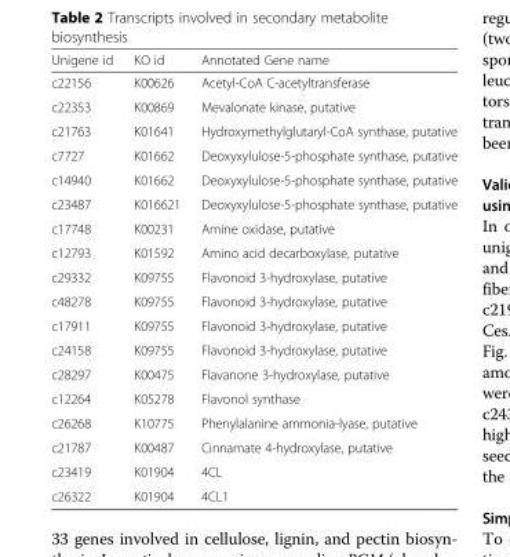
<table><thead><tr><td>Unigene id</td><td>KO id</td><td>Annotated Gene name</td></tr></thead><tbody><tr><td>c22156</td><td>K00626</td><td>Acetyl-CoA C-acetyltransferase</td></tr><tr><td>c22353</td><td>K00869</td><td>Mevalonate kinase, putative</td></tr><tr><td>c21763</td><td>K01641</td><td>Hydroxymethylglutaryl-CoA synthase, putative</td></tr><tr><td>c7727</td><td>K01662</td><td>Deoxyxylulose-5-phosphate synthase, putative</td></tr><tr><td>c14940</td><td>K01662</td><td>Deoxyxylulose-5-phosphate synthase, putative</td></tr><tr><td>c23487</td><td>K016621</td><td>Deoxyxylulose-5-phosphate synthase, putative</td></tr><tr><td>c17748</td><td>K00231</td><td>Amine oxidase, putative</td></tr><tr><td>c12793</td><td>K01592</td><td>Amino acid decarboxylase, putative</td></tr><tr><td>c29332</td><td>K09755</td><td>Flavonoid 3-hydroxylase, putative</td></tr><tr><td>c48278</td><td>K09755</td><td>Flavonoid 3-hydroxylase, putative</td></tr><tr><td>c17911</td><td>K09755</td><td>Flavonoid 3-hydroxylase, putative</td></tr><tr><td>c24158</td><td>K09755</td><td>Flavonoid 3-hydroxylase, putative</td></tr><tr><td>c28297</td><td>K00475</td><td>Flavanone 3-hydroxylase, putative</td></tr><tr><td>c12264</td><td>K05278</td><td>Flavonol synthase</td></tr><tr><td>c26268</td><td>K10775</td><td>Phenylalanine ammonia-lyase, putative</td></tr><tr><td>c21787</td><td>K00487</td><td>Cinnamate 4-hydroxylase, putative</td></tr><tr><td>c23419</td><td>K01904</td><td>4CL</td></tr><tr><td>c26322</td><td>K01904</td><td>4CL1</td></tr></tbody></table>